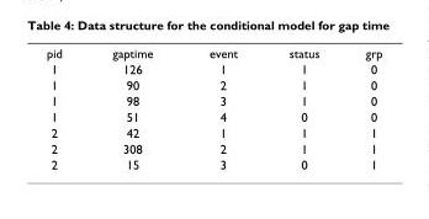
<table><tbody><tr><td>pid</td><td>gaptime</td><td>event</td><td>status</td><td>grp</td></tr><tr><td>1</td><td>126</td><td>1</td><td>1</td><td>0</td></tr><tr><td>1</td><td>90</td><td>2</td><td>1</td><td>0</td></tr><tr><td>1</td><td>98</td><td>3</td><td>1</td><td>0</td></tr><tr><td>1</td><td>51</td><td>4</td><td>0</td><td>0</td></tr><tr><td>2</td><td>42</td><td>1</td><td>1</td><td>1</td></tr><tr><td>2</td><td>308</td><td>2</td><td>1</td><td>1</td></tr><tr><td>2</td><td>15</td><td>3</td><td>0</td><td>1</td></tr></tbody></table>